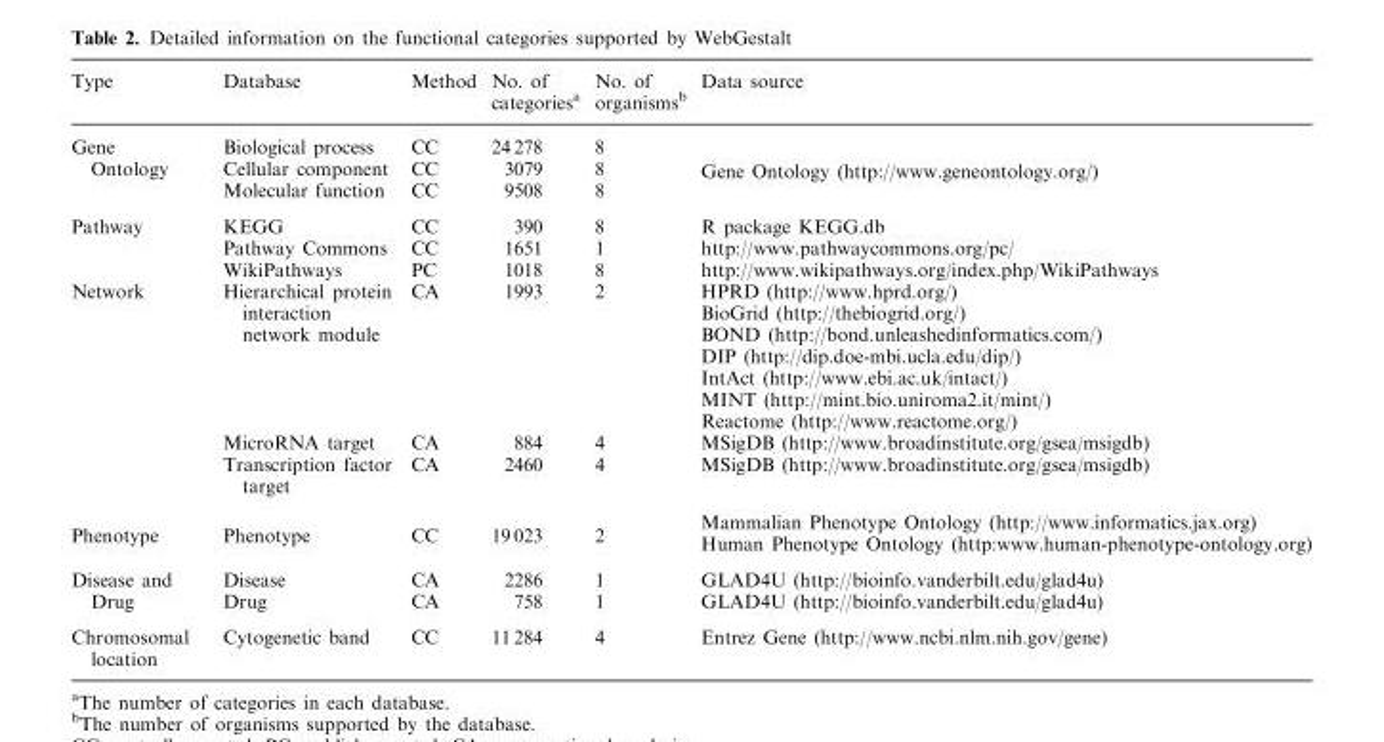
<table><thead><tr><td>Type</td><td>Database</td><td>Method</td><td>No. of categories<sup>a</sup></td><td>No. of organisms<sup>b</sup></td><td>Data source</td></tr></thead><tbody><tr><td rowspan="3">Gene Ontology</td><td>Biological process</td><td>CC</td><td>24 278</td><td>8</td><td rowspan="3">Gene Ontology (http://www.geneontology.org/)</td></tr><tr><td>Cellular component</td><td>CC</td><td>3079</td><td>8</td></tr><tr><td>Molecular function</td><td>CC</td><td>9508</td><td>8</td></tr><tr><td rowspan="3">Pathway</td><td>KEGG</td><td>CC</td><td>390</td><td>8</td><td>R package KEGG.db</td></tr><tr><td>Pathway Commons</td><td>CC</td><td>1651</td><td>1</td><td>http://www.pathwaycommons.org/pc/</td></tr><tr><td>WikiPathways</td><td>PC</td><td>1018</td><td>8</td><td>http://www.wikipathways.org/index.php/WikiPathways</td></tr><tr><td rowspan="9">Network</td><td rowspan="7">Hierarchical protein interaction network module</td><td rowspan="7">CA</td><td rowspan="7">1993</td><td rowspan="7">2</td><td>HPRD (http://www.hprd.org/)</td></tr><tr><td>BioGrid (http://thebiogrid.org/)</td></tr><tr><td>BOND (http://bond.unleashedinformatics.com/)</td></tr><tr><td>DIP (http://dip.doe-mbi.ucla.edu/dip/)</td></tr><tr><td>IntAct (http://www.ebi.ac.uk/intact/)</td></tr><tr><td>MINT (http://mint.bio.uniroma2.it/mint/)</td></tr><tr><td>Reactome (http://www.reactome.org/)</td></tr><tr><td>MicroRNA target</td><td>CA</td><td>884</td><td>4</td><td>MSigDB (http://www.broadinstitute.org/gsea/msigdb)</td></tr><tr><td>Transcription factor target</td><td>CA</td><td>2460</td><td>4</td><td>MSigDB (http://www.broadinstitute.org/gsea/msigdb)</td></tr><tr><td rowspan="2">Phenotype</td><td rowspan="2">Phenotype</td><td rowspan="2">CC</td><td rowspan="2">19 023</td><td rowspan="2">2</td><td>Mammalian Phenotype Ontology (http://www.informatics.jax.org)</td></tr><tr><td>Human Phenotype Ontology (http:www.human-phenotype-ontology.org)</td></tr><tr><td rowspan="2">Disease and Drug</td><td>Disease</td><td>CA</td><td>2286</td><td>1</td><td>GLAD4U (http://bioinfo.vanderbilt.edu/glad4u)</td></tr><tr><td>Drug</td><td>CA</td><td>758</td><td>1</td><td>GLAD4U (http://bioinfo.vanderbilt.edu/glad4u)</td></tr><tr><td>Chromosomal location</td><td>Cytogenetic band</td><td>CC</td><td>11 284</td><td>4</td><td>Entrez Gene (http://www.ncbi.nlm.nih.gov/gene)</td></tr></tbody></table>